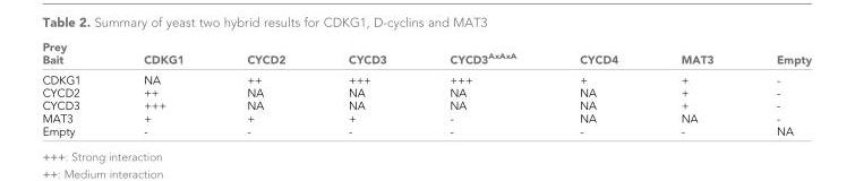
<table><thead><tr><td>Prey Bait</td><td>CDKG1</td><td>CYCD2</td><td>CYCD3</td><td>CYCD3<sup>AxAxA</sup></td><td>CYCD4</td><td>MAT3</td><td>Empty</td></tr></thead><tbody><tr><td>CDKG1 CYCD2 CYCD3 MAT3 Empty</td><td>NA ++ +++ + -</td><td>++ NA NA + -</td><td>+++ NA NA + -</td><td>+++ NA NA - -</td><td>+ NA NA NA -</td><td>+ + + NA -</td><td>- - - - NA</td></tr></tbody></table>